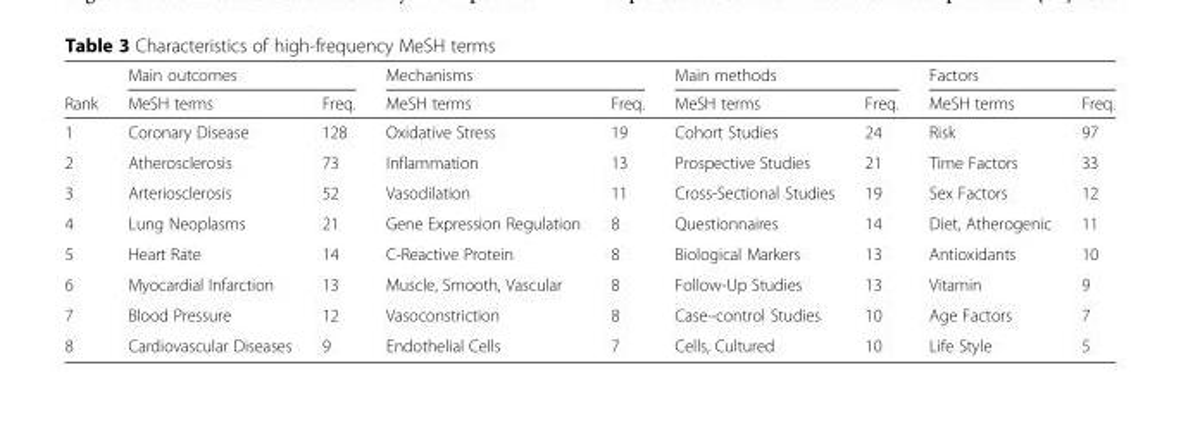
<table><thead><tr><td rowspan="2">Rank</td><td colspan="2">Main outcomes</td><td colspan="2">Mechanisms</td><td colspan="2">Main methods</td><td colspan="2">Factors</td></tr><tr><td>MeSH terms</td><td>Freq.</td><td>MeSH terms</td><td>Freq.</td><td>MeSH terms</td><td>Freq.</td><td>MeSH terms</td><td>Freq.</td></tr></thead><tbody><tr><td>1</td><td>Coronary Disease</td><td>128</td><td>Oxidative Stress</td><td>19</td><td>Cohort Studies</td><td>24</td><td>Risk</td><td>97</td></tr><tr><td>2</td><td>Atherosclerosis</td><td>73</td><td>Inflammation</td><td>13</td><td>Prospective Studies</td><td>21</td><td>Time Factors</td><td>33</td></tr><tr><td>3</td><td>Arteriosclerosis</td><td>52</td><td>Vasodilation</td><td>11</td><td>Cross-Sectional Studies</td><td>19</td><td>Sex Factors</td><td>12</td></tr><tr><td>4</td><td>Lung Neoplasms</td><td>21</td><td>Gene Expression Regulation</td><td>8</td><td>Questionnaires</td><td>14</td><td>Diet, Atherogenic</td><td>11</td></tr><tr><td>5</td><td>Heart Rate</td><td>14</td><td>C-Reactive Protein</td><td>8</td><td>Biological Markers</td><td>13</td><td>Antioxidants</td><td>10</td></tr><tr><td>6</td><td>Myocardial Infarction</td><td>13</td><td>Muscle, Smooth, Vascular</td><td>8</td><td>Follow-Up Studies</td><td>13</td><td>Vitamin</td><td>9</td></tr><tr><td>7</td><td>Blood Pressure</td><td>12</td><td>Vasoconstriction</td><td>8</td><td>Case–control Studies</td><td>10</td><td>Age Factors</td><td>7</td></tr><tr><td>8</td><td>Cardiovascular Diseases</td><td>9</td><td>Endothelial Cells</td><td>7</td><td>Cells, Cultured</td><td>10</td><td>Life Style</td><td>5</td></tr></tbody></table>